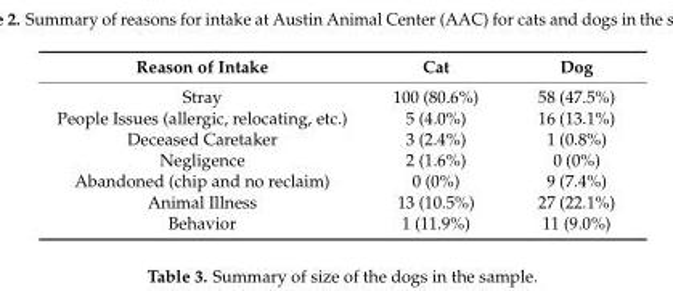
<table><thead><tr><td>Reason of Intake</td><td>Cat</td><td>Dog</td></tr></thead><tbody><tr><td>Stray</td><td>100 (80.6%)</td><td>58 (47.5%)</td></tr><tr><td>People Issues (allergic, relocating, etc.)</td><td>5 (4.0%)</td><td>16 (13.1%)</td></tr><tr><td>Deceased Caretaker</td><td>3 (2.4%)</td><td>1 (0.8%)</td></tr><tr><td>Negligence</td><td>2 (1.6%)</td><td>0 (0%)</td></tr><tr><td>Abandoned (chip and no reclaim)</td><td>0 (0%)</td><td>9 (7.4%)</td></tr><tr><td>Animal Illness</td><td>13 (10.5%)</td><td>27 (22.1%)</td></tr><tr><td>Behavior</td><td>1 (11.9%)</td><td>11 (9.0%)</td></tr></tbody></table>